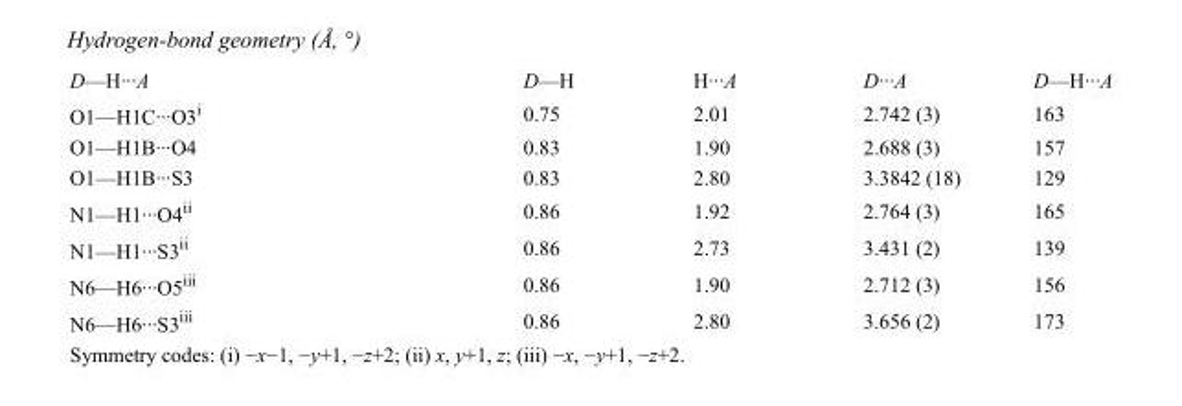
<table><tbody><tr><td>D—H···A</td><td>D—H</td><td>H···A</td><td>D···A</td><td>D—H···A</td></tr><tr><td>O1—H1C···O3<sup>i</sup></td><td>0.75</td><td>2.01</td><td>2.742 (3)</td><td>163</td></tr><tr><td>O1—H1B···O4</td><td>0.83</td><td>1.90</td><td>2.688 (3)</td><td>157</td></tr><tr><td>O1—H1B···S3</td><td>0.83</td><td>2.80</td><td>3.3842 (18)</td><td>129</td></tr><tr><td>N1—H1···O4<sup>ii</sup></td><td>0.86</td><td>1.92</td><td>2.764 (3)</td><td>165</td></tr><tr><td>N1—H1···S3<sup>ii</sup></td><td>0.86</td><td>2.73</td><td>3.431 (2)</td><td>139</td></tr><tr><td>N6—H6···O5<sup>iii</sup></td><td>0.86</td><td>1.90</td><td>2.712 (3)</td><td>156</td></tr><tr><td>N6—H6···S3<sup>iii</sup></td><td>0.86</td><td>2.80</td><td>3.656 (2)</td><td>173</td></tr></tbody></table>